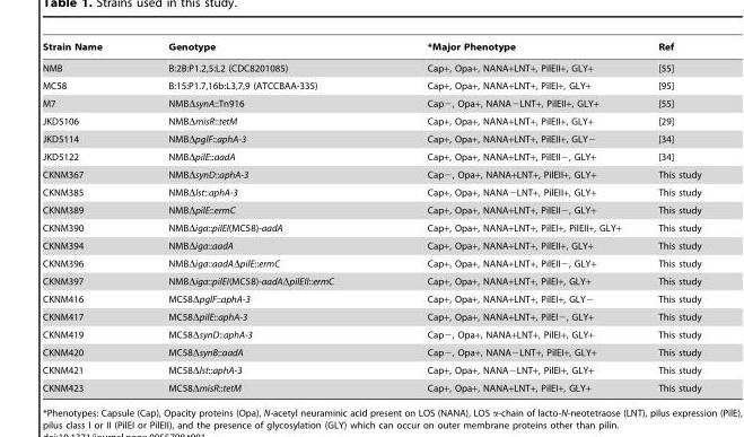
<table><thead><tr><td>Strain Name</td><td>Genotype</td><td>*Major Phenotype</td><td>Ref</td></tr></thead><tbody><tr><td>NMB</td><td>B:2B:P1.2,5:L2 (CDC8201085)</td><td>Cap+, Opa+, NANA+LNT+, PilEII+, GLY+</td><td>[55]</td></tr><tr><td>MC58</td><td>B:15:P1.7,16b:L3,7,9 (ATCCBAA-335)</td><td>Cap+, Opa+, NANA+LNT+, PilEI+, GLY+</td><td>[95]</td></tr><tr><td>M7</td><td>NMBΔsynA::Tn916</td><td>Cap−, Opa+, NANA−LNT+, PilEII+, GLY+</td><td>[55]</td></tr><tr><td>JKD5106</td><td>NMBΔmisR::tetM</td><td>Cap+, Opa+, NANA+LNT+, PilEII+, GLY+</td><td>[29]</td></tr><tr><td>JKD5114</td><td>NMBΔpglF::aphA-3</td><td>Cap+, Opa+, NANA+LNT+, PilEII+, GLY−</td><td>[34]</td></tr><tr><td>JKD5122</td><td>NMBΔpilE::aadA</td><td>Cap+, Opa+, NANA+LNT+, PilEII−, GLY+</td><td>[34]</td></tr><tr><td>CKNM367</td><td>NMBΔsynD::aphA-3</td><td>Cap−, Opa+, NANA+LNT+, PilEII+, GLY+</td><td>This study</td></tr><tr><td>CKNM385</td><td>NMBΔlst::aphA-3</td><td>Cap+, Opa+, NANA−LNT+, PilEII+, GLY+</td><td>This study</td></tr><tr><td>CKNM389</td><td>NMBΔpilE::ermC</td><td>Cap+, Opa+, NANA+LNT+, PilEII−, GLY+</td><td>This study</td></tr><tr><td>CKNM390</td><td>NMBΔiga::pilEI(MC58)-aadA</td><td>Cap+, Opa+, NANA+LNT+, PilEI+, PilEII+, GLY+</td><td>This study</td></tr><tr><td>CKNM394</td><td>NMBΔiga::aadA</td><td>Cap+, Opa+, NANA+LNT+, PilEII+, GLY+</td><td>This study</td></tr><tr><td>CKNM396</td><td>NMBΔiga::aadAΔpilE::ermC</td><td>Cap+, Opa+, NANA+LNT+, PilEII−, GLY+</td><td>This study</td></tr><tr><td>CKNM397</td><td>NMBΔiga::pilEI(MC58)-aadAΔpilEII::ermC</td><td>Cap+, Opa+, NANA+LNT+, PilEI+, GLY+</td><td>This study</td></tr><tr><td>CKNM416</td><td>MC58ΔpglF::aphA-3</td><td>Cap+, Opa+, NANA+LNT+, PilEI+, GLY−</td><td>This study</td></tr><tr><td>CKNM417</td><td>MC58ΔpilE::aphA-3</td><td>Cap+, Opa+, NANA+LNT+, PilEI−, GLY+</td><td>This study</td></tr><tr><td>CKNM419</td><td>MC58ΔsynD::aphA-3</td><td>Cap−, Opa+, NANA+LNT+, PilEI+, GLY+</td><td>This study</td></tr><tr><td>CKNM420</td><td>MC58ΔsynB::aadA</td><td>Cap−, Opa+, NANA−LNT+, PilEI+, GLY+</td><td>This study</td></tr><tr><td>CKNM421</td><td>MC58Δlst::aphA-3</td><td>Cap+, Opa+, NANA−LNT+, PilEI+, GLY+</td><td>This study</td></tr><tr><td>CKNM423</td><td>MC58ΔmisR::tetM</td><td>Cap+, Opa+, NANA+LNT+, PilEI+, GLY+</td><td>This study</td></tr></tbody></table>